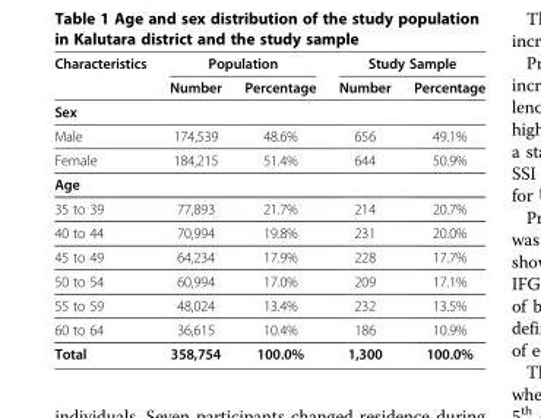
<table><thead><tr><td rowspan="2">Characteristics</td><td colspan="2">Population</td><td colspan="2">Study Sample</td></tr><tr><td>Number</td><td>Percentage</td><td>Number</td><td>Percentage</td></tr></thead><tbody><tr><td colspan="5">Sex</td></tr><tr><td>Male</td><td>174,539</td><td>48.6%</td><td>656</td><td>49.1%</td></tr><tr><td>Female</td><td>184,215</td><td>51.4%</td><td>644</td><td>50.9%</td></tr><tr><td colspan="5">Age</td></tr><tr><td>35 to 39</td><td>77,893</td><td>21.7%</td><td>214</td><td>20.7%</td></tr><tr><td>40 to 44</td><td>70,994</td><td>19.8%</td><td>231</td><td>20.0%</td></tr><tr><td>45 to 49</td><td>64,234</td><td>17.9%</td><td>228</td><td>17.7%</td></tr><tr><td>50 to 54</td><td>60,994</td><td>17.0%</td><td>209</td><td>17.1%</td></tr><tr><td>55 to 59</td><td>48,024</td><td>13.4%</td><td>232</td><td>13.5%</td></tr><tr><td>60 to 64</td><td>36,615</td><td>10.4%</td><td>186</td><td>10.9%</td></tr><tr><td>Total</td><td>358,754</td><td>100.0%</td><td>1,300</td><td>100.0%</td></tr></tbody></table>